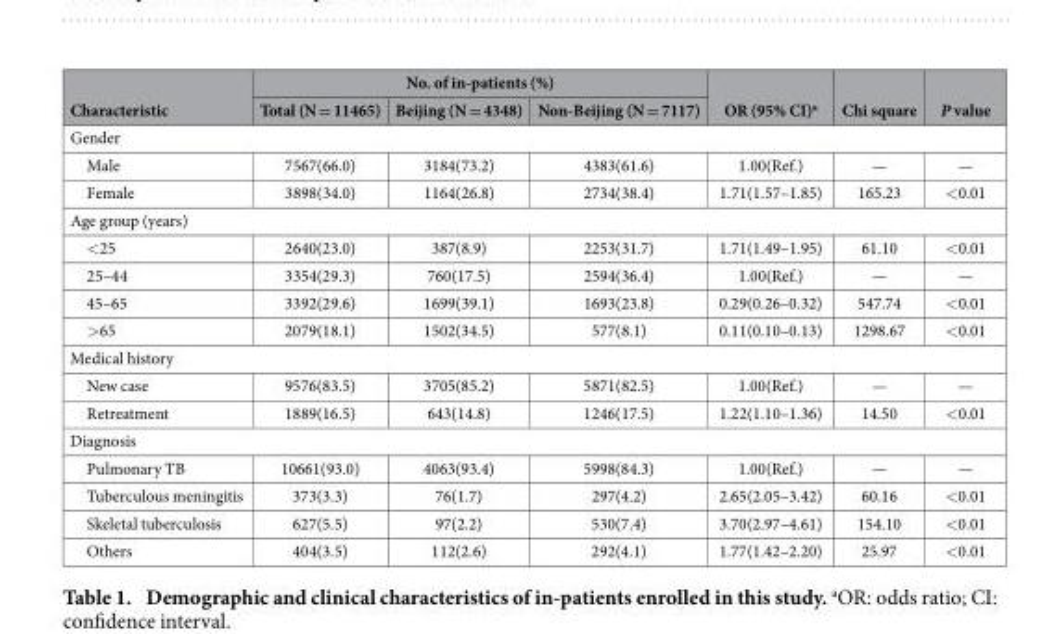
<table><thead><tr><td rowspan="2">Characteristic</td><td colspan="3">No. of in-patients (%)</td><td rowspan="2">OR (95% CI)a</td><td rowspan="2">Chi square</td><td rowspan="2">P value</td></tr><tr><td>Total (N = 11465)</td><td>Beijing (N = 4348)</td><td>Non-Beijing (N = 7117)</td></tr></thead><tbody><tr><td colspan="7">Gender</td></tr><tr><td>Male</td><td>7567(66.0)</td><td>3184(73.2)</td><td>4383(61.6)</td><td>1.00(Ref.)</td><td>—</td><td>—</td></tr><tr><td>Female</td><td>3898(34.0)</td><td>1164(26.8)</td><td>2734(38.4)</td><td>1.71(1.57–1.85)</td><td>165.23</td><td>&lt; 0.01</td></tr><tr><td colspan="7">Age group (years)</td></tr><tr><td>&lt; 25</td><td>2640(23.0)</td><td>387(8.9)</td><td>2253(31.7)</td><td>1.71(1.49–1.95)</td><td>61.10</td><td>&lt; 0.01</td></tr><tr><td>25–44</td><td>3354(29.3)</td><td>760(17.5)</td><td>2594(36.4)</td><td>1.00(Ref.)</td><td>—</td><td>—</td></tr><tr><td>45–65</td><td>3392(29.6)</td><td>1699(39.1)</td><td>1693(23.8)</td><td>0.29(0.26–0.32)</td><td>547.74</td><td>&lt; 0.01</td></tr><tr><td>&gt; 65</td><td>2079(18.1)</td><td>1502(34.5)</td><td>577(8.1)</td><td>0.11(0.10–0.13)</td><td>1298.67</td><td>&lt; 0.01</td></tr><tr><td colspan="7">Medical history</td></tr><tr><td>New case</td><td>9576(83.5)</td><td>3705(85.2)</td><td>5871(82.5)</td><td>1.00(Ref.)</td><td>—</td><td>—</td></tr><tr><td>Retreatment</td><td>1889(16.5)</td><td>643(14.8)</td><td>1246(17.5)</td><td>1.22(1.10–1.36)</td><td>14.50</td><td>&lt; 0.01</td></tr><tr><td colspan="7">Diagnosis</td></tr><tr><td>Pulmonary TB</td><td>10661(93.0)</td><td>4063(93.4)</td><td>5998(84.3)</td><td>1.00(Ref.)</td><td>—</td><td>—</td></tr><tr><td>Tuberculous meningitis</td><td>373(3.3)</td><td>76(1.7)</td><td>297(4.2)</td><td>2.65(2.05–3.42)</td><td>60.16</td><td>&lt; 0.01</td></tr><tr><td>Skeletal tuberculosis</td><td>627(5.5)</td><td>97(2.2)</td><td>530(7.4)</td><td>3.70(2.97–4.61)</td><td>154.10</td><td>&lt; 0.01</td></tr><tr><td>Others</td><td>404(3.5)</td><td>112(2.6)</td><td>292(4.1)</td><td>1.77(1.42–2.20)</td><td>25.97</td><td>&lt; 0.01</td></tr></tbody></table>